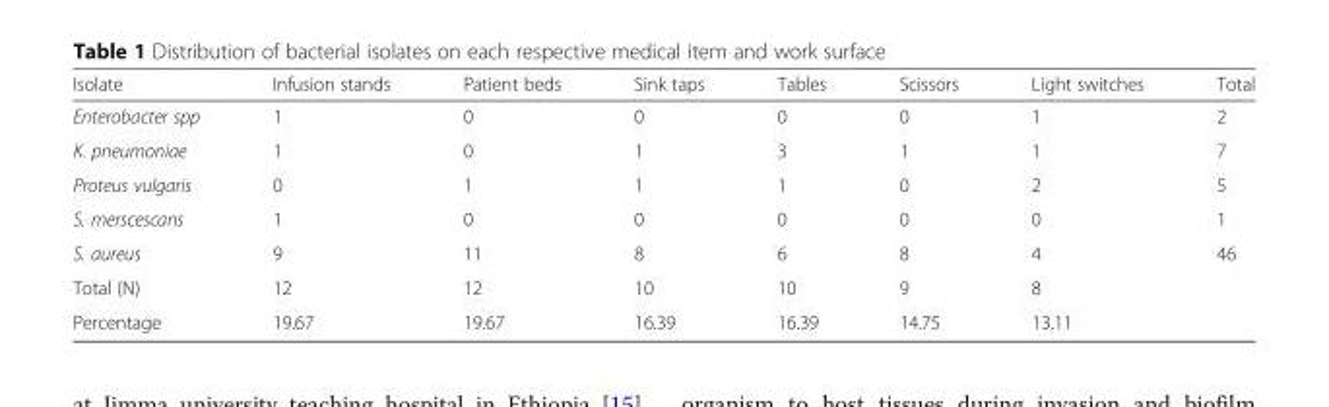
<table><thead><tr><td>Isolate</td><td>Infusion stands</td><td>Patient beds</td><td>Sink taps</td><td>Tables</td><td>Scissors</td><td>Light switches</td><td>Total</td></tr></thead><tbody><tr><td>Enterobacter spp</td><td>1</td><td>0</td><td>0</td><td>0</td><td>0</td><td>1</td><td>2</td></tr><tr><td>K. pneumoniae</td><td>1</td><td>0</td><td>1</td><td>3</td><td>1</td><td>1</td><td>7</td></tr><tr><td>Proteus vulgaris</td><td>0</td><td>1</td><td>1</td><td>1</td><td>0</td><td>2</td><td>5</td></tr><tr><td>S. merscescans</td><td>1</td><td>0</td><td>0</td><td>0</td><td>0</td><td>0</td><td>1</td></tr><tr><td>S. aureus</td><td>9</td><td>11</td><td>8</td><td>6</td><td>8</td><td>4</td><td>46</td></tr><tr><td>Total (N)</td><td>12</td><td>12</td><td>10</td><td>10</td><td>9</td><td>8</td><td></td></tr><tr><td>Percentage</td><td>19.67</td><td>19.67</td><td>16.39</td><td>16.39</td><td>14.75</td><td>13.11</td><td></td></tr></tbody></table>